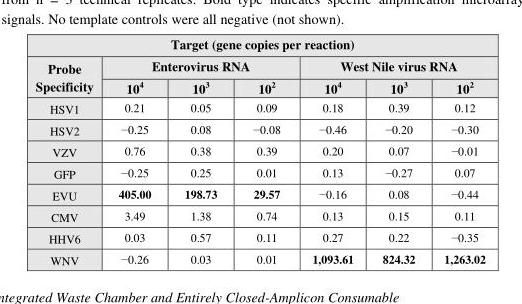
<table><thead><tr><td colspan="7">Target (gene copies per reaction)</td></tr><tr><td rowspan="2">Probe Specificity</td><td colspan="3">Enterovirus RNA</td><td colspan="3">West Nile virus RNA</td></tr><tr><td>10<sup>4</sup></td><td>10<sup>3</sup></td><td>10<sup>2</sup></td><td>10<sup>4</sup></td><td>10<sup>3</sup></td><td>10<sup>2</sup></td></tr></thead><tbody><tr><td>HSV1</td><td>0.21</td><td>0.05</td><td>0.09</td><td>0.18</td><td>0.39</td><td>0.12</td></tr><tr><td>HSV2</td><td>−0.25</td><td>0.08</td><td>−0.08</td><td>−0.46</td><td>−0.20</td><td>−0.30</td></tr><tr><td>VZV</td><td>0.76</td><td>0.38</td><td>0.39</td><td>0.20</td><td>0.07</td><td>−0.01</td></tr><tr><td>GFP</td><td>−0.25</td><td>0.25</td><td>0.01</td><td>0.13</td><td>−0.27</td><td>0.07</td></tr><tr><td>EVU</td><td>405.00</td><td>198.73</td><td>29.57</td><td>−0.16</td><td>0.08</td><td>−0.44</td></tr><tr><td>CMV</td><td>3.49</td><td>1.38</td><td>0.74</td><td>0.13</td><td>0.15</td><td>0.11</td></tr><tr><td>HHV6</td><td>0.03</td><td>0.57</td><td>0.11</td><td>0.27</td><td>0.22</td><td>−0.35</td></tr><tr><td>WNV</td><td>−0.26</td><td>0.03</td><td>0.01</td><td>1,093.61</td><td>824.32</td><td>1,263.02</td></tr></tbody></table>